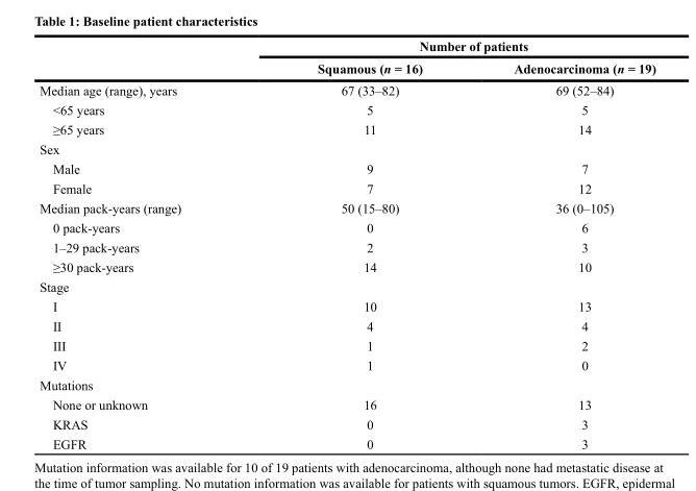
<table><thead><tr><td rowspan="2"></td><td colspan="2">Number of patients</td></tr><tr><td>Squamous (n = 16)</td><td>Adenocarcinoma (n = 19)</td></tr></thead><tbody><tr><td>Median age (range), years</td><td>67 (33–82)</td><td>69 (52–84)</td></tr><tr><td>&lt;65 years</td><td>5</td><td>5</td></tr><tr><td>≥65 years</td><td>11</td><td>14</td></tr><tr><td colspan="3">Sex</td></tr><tr><td>Male</td><td>9</td><td>7</td></tr><tr><td>Female</td><td>7</td><td>12</td></tr><tr><td>Median pack-years (range)</td><td>50 (15–80)</td><td>36 (0–105)</td></tr><tr><td>0 pack-years</td><td>0</td><td>6</td></tr><tr><td>1–29 pack-years</td><td>2</td><td>3</td></tr><tr><td>≥30 pack-years</td><td>14</td><td>10</td></tr><tr><td colspan="3">Stage</td></tr><tr><td>I</td><td>10</td><td>13</td></tr><tr><td>II</td><td>4</td><td>4</td></tr><tr><td>III</td><td>1</td><td>2</td></tr><tr><td>IV</td><td>1</td><td>0</td></tr><tr><td colspan="3">Mutations</td></tr><tr><td>None or unknown</td><td>16</td><td>13</td></tr><tr><td>KRAS</td><td>0</td><td>3</td></tr><tr><td>EGFR</td><td>0</td><td>3</td></tr></tbody></table>